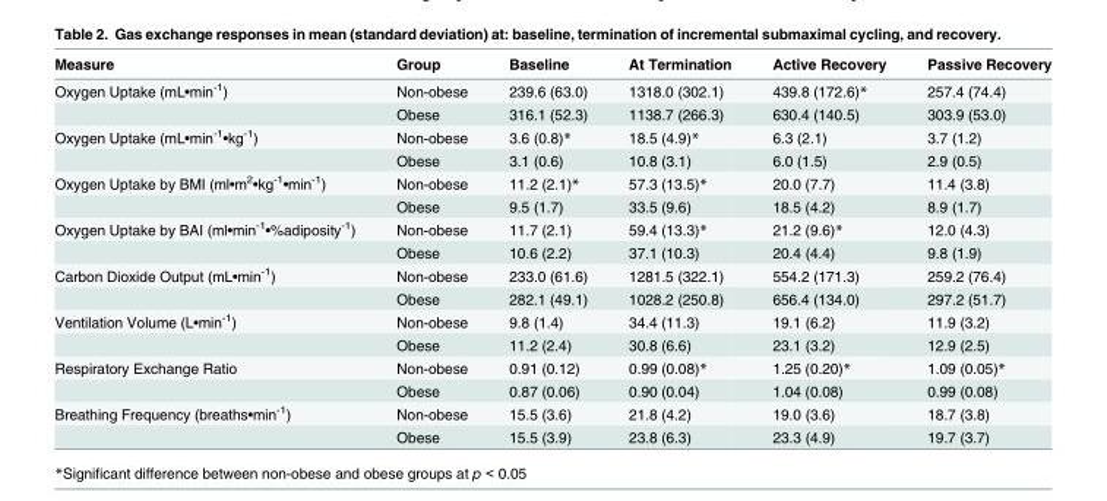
<table><thead><tr><td>Measure</td><td>Group</td><td>Baseline</td><td>At Termination</td><td>Active Recovery</td><td>Passive Recovery</td></tr></thead><tbody><tr><td rowspan="2">Oxygen Uptake (mL•min<sup>-1</sup>)</td><td>Non-obese</td><td>239.6 (63.0)</td><td>1318.0 (302.1)</td><td>439.8 (172.6)*</td><td>257.4 (74.4)</td></tr><tr><td>Obese</td><td>316.1 (52.3)</td><td>1138.7 (266.3)</td><td>630.4 (140.5)</td><td>303.9 (53.0)</td></tr><tr><td rowspan="2">Oxygen Uptake (mL•min<sup>-1</sup>•kg<sup>-1</sup>)</td><td>Non-obese</td><td>3.6 (0.8)*</td><td>18.5 (4.9)*</td><td>6.3 (2.1)</td><td>3.7 (1.2)</td></tr><tr><td>Obese</td><td>3.1 (0.6)</td><td>10.8 (3.1)</td><td>6.0 (1.5)</td><td>2.9 (0.5)</td></tr><tr><td rowspan="2">Oxygen Uptake by BMI (ml•m<sup>2</sup>•kg<sup>-1</sup>•min<sup>-1</sup>)</td><td>Non-obese</td><td>11.2 (2.1)*</td><td>57.3 (13.5)*</td><td>20.0 (7.7)</td><td>11.4 (3.8)</td></tr><tr><td>Obese</td><td>9.5 (1.7)</td><td>33.5 (9.6)</td><td>18.5 (4.2)</td><td>8.9 (1.7)</td></tr><tr><td rowspan="2">Oxygen Uptake by BAI (ml•min<sup>-1</sup>•%adiposity<sup>-1</sup>)</td><td>Non-obese</td><td>11.7 (2.1)</td><td>59.4 (13.3)*</td><td>21.2 (9.6)*</td><td>12.0 (4.3)</td></tr><tr><td>Obese</td><td>10.6 (2.2)</td><td>37.1 (10.3)</td><td>20.4 (4.4)</td><td>9.8 (1.9)</td></tr><tr><td rowspan="2">Carbon Dioxide Output (mL•min<sup>-1</sup>)</td><td>Non-obese</td><td>233.0 (61.6)</td><td>1281.5 (322.1)</td><td>554.2 (171.3)</td><td>259.2 (76.4)</td></tr><tr><td>Obese</td><td>282.1 (49.1)</td><td>1028.2 (250.8)</td><td>656.4 (134.0)</td><td>297.2 (51.7)</td></tr><tr><td rowspan="2">Ventilation Volume (L•min<sup>-1</sup>)</td><td>Non-obese</td><td>9.8 (1.4)</td><td>34.4 (11.3)</td><td>19.1 (6.2)</td><td>11.9 (3.2)</td></tr><tr><td>Obese</td><td>11.2 (2.4)</td><td>30.8 (6.6)</td><td>23.1 (3.2)</td><td>12.9 (2.5)</td></tr><tr><td rowspan="2">Respiratory Exchange Ratio</td><td>Non-obese</td><td>0.91 (0.12)</td><td>0.99 (0.08)*</td><td>1.25 (0.20)*</td><td>1.09 (0.05)*</td></tr><tr><td>Obese</td><td>0.87 (0.06)</td><td>0.90 (0.04)</td><td>1.04 (0.08)</td><td>0.99 (0.08)</td></tr><tr><td rowspan="2">Breathing Frequency (breaths•min<sup>-1</sup>)</td><td>Non-obese</td><td>15.5 (3.6)</td><td>21.8 (4.2)</td><td>19.0 (3.6)</td><td>18.7 (3.8)</td></tr><tr><td>Obese</td><td>15.5 (3.9)</td><td>23.8 (6.3)</td><td>23.3 (4.9)</td><td>19.7 (3.7)</td></tr></tbody></table>